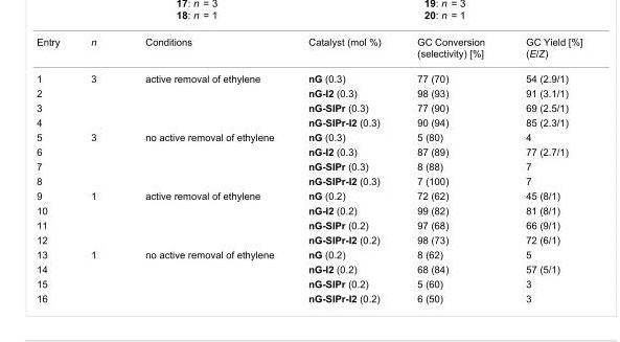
<table><tbody><tr><td>Entry</td><td>n</td><td>Conditions</td><td>Catalyst (mol %)</td><td>GC Conversion (selectivity) [%]</td><td>GC Yield [%] (E/Z)</td></tr><tr><td>1</td><td rowspan="4">3</td><td rowspan="4">active removal of ethylene</td><td>nG (0.3)</td><td>77 (70)</td><td>54 (2.9/1)</td></tr><tr><td>2</td><td>nG-I2 (0.3)</td><td>98 (93)</td><td>91 (3.1/1)</td></tr><tr><td>3</td><td>nG-SIPr (0.3)</td><td>77 (90)</td><td>69 (2.5/1)</td></tr><tr><td>4</td><td>nG-SIPr-I2 (0.3)</td><td>90 (94)</td><td>85 (2.3/1)</td></tr><tr><td>5</td><td rowspan="4">3</td><td rowspan="4">no active removal of ethylene</td><td>nG (0.3)</td><td>5 (80)</td><td>4</td></tr><tr><td>6</td><td>nG-I2 (0.3)</td><td>87 (89)</td><td>77 (2.7/1)</td></tr><tr><td>7</td><td>nG-SIPr (0.3)</td><td>8 (88)</td><td>7</td></tr><tr><td>8</td><td>nG-SIPr-I2 (0.3)</td><td>7 (100)</td><td>7</td></tr><tr><td>9</td><td rowspan="4">1</td><td rowspan="4">active removal of ethylene</td><td>nG (0.2)</td><td>72 (62)</td><td>45 (8/1)</td></tr><tr><td>10</td><td>nG-I2 (0.2)</td><td>99 (82)</td><td>81 (8/1)</td></tr><tr><td>11</td><td>nG-SIPr (0.2)</td><td>97 (68)</td><td>66 (9/1)</td></tr><tr><td>12</td><td>nG-SIPr-I2 (0.2)</td><td>98 (73)</td><td>72 (6/1)</td></tr><tr><td>13</td><td rowspan="4">1</td><td rowspan="4">no active removal of ethylene</td><td>nG (0.2)</td><td>8 (62)</td><td>5</td></tr><tr><td>14</td><td>nG-I2 (0.2)</td><td>68 (84)</td><td>57 (5/1)</td></tr><tr><td>15</td><td>nG-SIPr (0.2)</td><td>5 (60)</td><td>3</td></tr><tr><td>16</td><td>nG-SIPr-I2 (0.2)</td><td>6 (50)</td><td>3</td></tr></tbody></table>